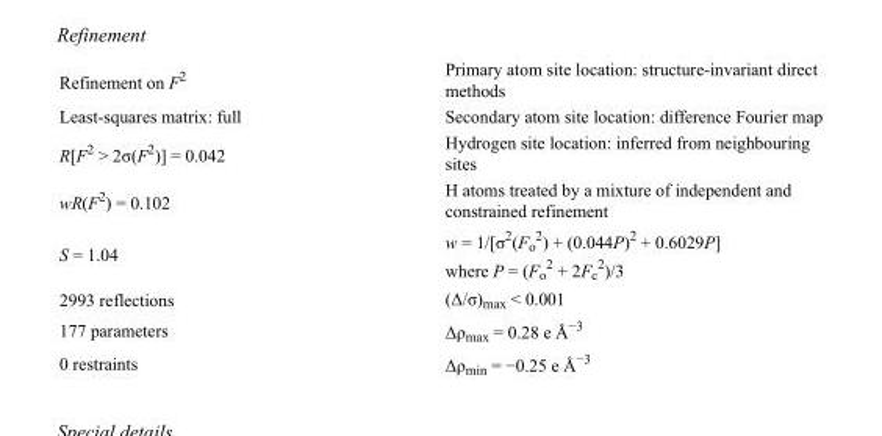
<table><tbody><tr><td>Refinement on F<sup>2</sup></td><td>Primary atom site location: structure-invariant direct methods</td></tr><tr><td>Least-squares matrix: full</td><td>Secondary atom site location: difference Fourier map</td></tr><tr><td>R[F<sup>2</sup> &gt; 2σ(F<sup>2</sup>)] = 0.042</td><td>Hydrogen site location: inferred from neighbouring sites</td></tr><tr><td>wR(F<sup>2</sup>) = 0.102</td><td>H atoms treated by a mixture of independent and constrained refinement</td></tr><tr><td>S = 1.04</td><td>w = 1/[σ<sup>2</sup>(F<sub>o</sub> <sup>2</sup>) + (0.044P)<sup>2</sup> + 0.6029P] where P = (F<sub>o</sub> <sup>2</sup> + 2F<sub>c</sub> <sup>2</sup>)/3</td></tr><tr><td>2993 reflections</td><td>(Δ/σ)<sub>max</sub> &lt; 0.001</td></tr><tr><td>177 parameters</td><td>Δρ<sub>max</sub> = 0.28 e Å<sup>−3</sup></td></tr><tr><td>0 restraints</td><td>Δρ<sub>min</sub> = −0.25 e Å<sup>−3</sup></td></tr></tbody></table>